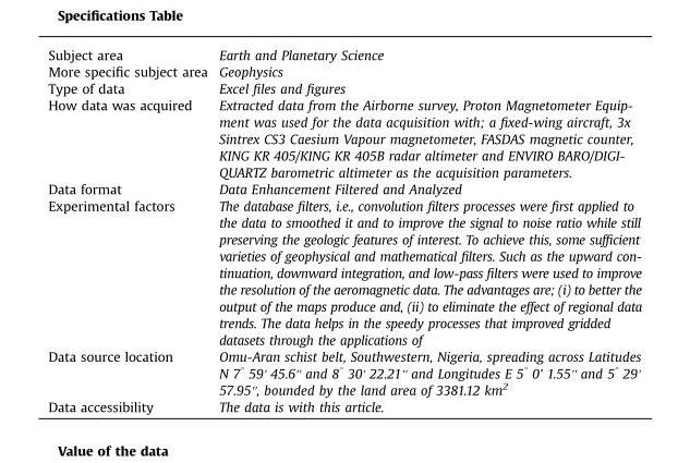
<table><tbody><tr><td>Subject area</td><td>Earth and Planetary Science</td></tr><tr><td>More specific subject area</td><td>Geophysics</td></tr><tr><td>Type of data</td><td>Excel files and figures</td></tr><tr><td>How data was acquired</td><td>Extracted data from the Airborne survey, Proton Magnetometer Equip- ment was used for the data acquisition with; a fixed-wing aircraft, 3x Sintrex CS3 Caesium Vapour magnetometer, FASDAS magnetic counter, KING KR 405/KING KR 405B radar altimeter and ENVIRO BARO/DIGI- QUARTZ barometric altimeter as the acquisition parameters.</td></tr><tr><td>Data format</td><td>Data Enhancement Filtered and Analyzed</td></tr><tr><td>Experimental factors</td><td>The database filters, i.e., convolution filters processes were first applied to the data to smoothed it and to improve the signal to noise ratio while still preserving the geologic features of interest. To achieve this, some sufficient varieties of geophysical and mathematical filters. Such as the upward con- tinuation, downward integration, and low-pass filters were used to improve the resolution of the aeromagnetic data. The advantages are; (i) to better the output of the maps produce and, (ii) to eliminate the effect of regional data trends. The data helps in the speedy processes that improved gridded datasets through the applications of</td></tr><tr><td>Data source location</td><td>Omu-Aran schist belt, Southwestern, Nigeria, spreading across Latitudes N 7° 59&#x27; 45.6&#x27;&#x27; and 8° 30&#x27; 22.21&#x27;&#x27; and Longitudes E 5° 0’ 1.55&#x27;&#x27; and 5° 29&#x27; 57.95&#x27;&#x27;, bounded by the land area of 3381.12 km2</td></tr><tr><td>Data accessibility</td><td>The data is with this article.</td></tr></tbody></table>